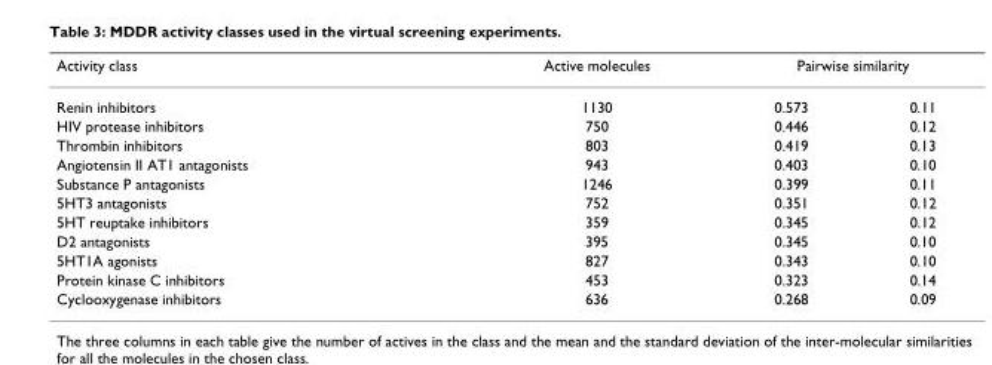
<table><thead><tr><td rowspan="2">Activity class Renin inhibitors</td><td rowspan="2">Active molecules 1130</td><td colspan="2">Pairwise similarity</td></tr><tr><td>0.573</td><td>0.11</td></tr></thead><tbody><tr><td>HIV protease inhibitors</td><td>750</td><td>0.446</td><td>0.12</td></tr><tr><td>Thrombin inhibitors</td><td>803</td><td>0.419</td><td>0.13</td></tr><tr><td>Angiotensin II AT1 antagonists</td><td>943</td><td>0.403</td><td>0.10</td></tr><tr><td>Substance P antagonists</td><td>1246</td><td>0.399</td><td>0.11</td></tr><tr><td>5HT3 antagonists</td><td>752</td><td>0.351</td><td>0.12</td></tr><tr><td>5HT reuptake inhibitors</td><td>359</td><td>0.345</td><td>0.12</td></tr><tr><td>D2 antagonists</td><td>395</td><td>0.345</td><td>0.10</td></tr><tr><td>5HT1A agonists</td><td>827</td><td>0.343</td><td>0.10</td></tr><tr><td>Protein kinase C inhibitors</td><td>453</td><td>0.323</td><td>0.14</td></tr><tr><td>Cyclooxygenase inhibitors</td><td>636</td><td>0.268</td><td>0.09</td></tr></tbody></table>